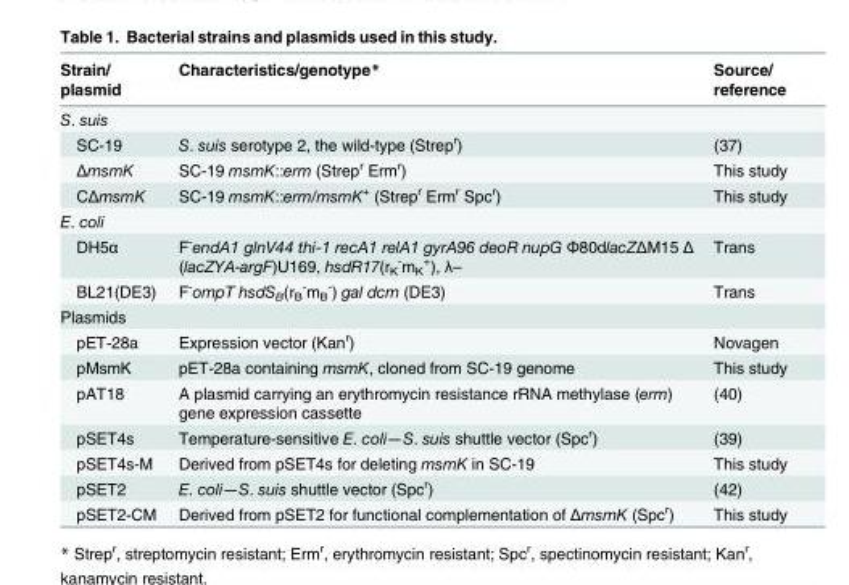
<table><thead><tr><td>Strain/ plasmid</td><td>Characteristics/genotype*</td><td>Source/ reference</td></tr></thead><tbody><tr><td colspan="3">S. suis</td></tr><tr><td>SC-19</td><td>S. suis serotype 2, the wild-type (Strep<sup>r</sup>)</td><td>(37)</td></tr><tr><td>ΔmsmK</td><td>SC-19 msmK::erm (Strep<sup>r</sup> Erm<sup>r</sup>)</td><td>This study</td></tr><tr><td>CΔmsmK</td><td>SC-19 msmK::erm/msmK<sup>+</sup> (Strep<sup>r</sup> Erm<sup>r</sup> Spc<sup>r</sup>)</td><td>This study</td></tr><tr><td colspan="3">E. coli</td></tr><tr><td>DH5α</td><td>F<sup>-</sup>endA1 glnV44 thi-1 recA1 relA1 gyrA96 deoR nupG Φ80dlacZΔM15 Δ (lacZYA-argF)U169, hsdR17(r<sub>K</sub> <sup>-</sup>m<sub>K</sub> <sup>+</sup>), λ–</td><td>Trans</td></tr><tr><td>BL21(DE3)</td><td>F<sup>-</sup>ompT hsdS<sub>B</sub>(r<sub>B</sub> <sup>-</sup>m<sub>B</sub> <sup>-</sup>) gal dcm (DE3)</td><td>Trans</td></tr><tr><td colspan="3">Plasmids</td></tr><tr><td>pET-28a</td><td>Expression vector (Kan<sup>r</sup>)</td><td>Novagen</td></tr><tr><td>pMsmK</td><td>pET-28a containing msmK, cloned from SC-19 genome</td><td>This study</td></tr><tr><td>pAT18</td><td>A plasmid carrying an erythromycin resistance rRNA methylase (erm) gene expression cassette</td><td>(40)</td></tr><tr><td>pSET4s</td><td>Temperature-sensitive E. coli—S. suis shuttle vector (Spc<sup>r</sup>)</td><td>(39)</td></tr><tr><td>pSET4s-M</td><td>Derived from pSET4s for deleting msmK in SC-19</td><td>This study</td></tr><tr><td>pSET2</td><td>E. coli—S. suis shuttle vector (Spc<sup>r</sup>)</td><td>(42)</td></tr><tr><td>pSET2-CM</td><td>Derived from pSET2 for functional complementation of ΔmsmK (Spc<sup>r</sup>)</td><td>This study</td></tr></tbody></table>